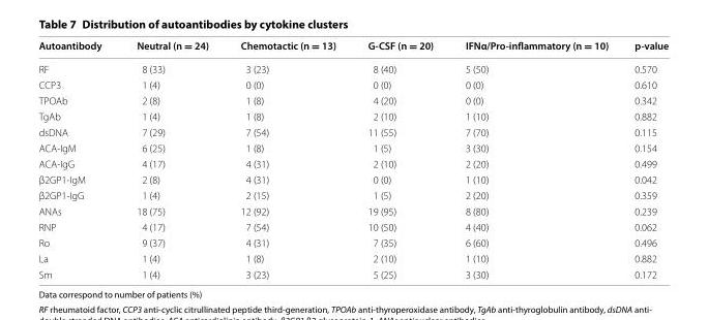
<table><thead><tr><td>Autoantibody</td><td>Neutral (n = 24)</td><td>Chemotactic (n = 13)</td><td>G-CSF (n = 20)</td><td>IFNα/Pro-inflammatory (n = 10)</td><td>p-value</td></tr></thead><tbody><tr><td>RF</td><td>8 (33)</td><td>3 (23)</td><td>8 (40)</td><td>5 (50)</td><td>0.570</td></tr><tr><td>CCP3</td><td>1 (4)</td><td>0 (0)</td><td>0 (0)</td><td>0 (0)</td><td>0.610</td></tr><tr><td>TPOAb</td><td>2 (8)</td><td>1 (8)</td><td>4 (20)</td><td>0 (0)</td><td>0.342</td></tr><tr><td>TgAb</td><td>1 (4)</td><td>1 (8)</td><td>2 (10)</td><td>1 (10)</td><td>0.882</td></tr><tr><td>dsDNA</td><td>7 (29)</td><td>7 (54)</td><td>11 (55)</td><td>7 (70)</td><td>0.115</td></tr><tr><td>ACA‑IgM</td><td>6 (25)</td><td>1 (8)</td><td>1 (5)</td><td>3 (30)</td><td>0.154</td></tr><tr><td>ACA‑IgG</td><td>4 (17)</td><td>4 (31)</td><td>2 (10)</td><td>2 (20)</td><td>0.499</td></tr><tr><td>β2GP1‑IgM</td><td>2 (8)</td><td>4 (31)</td><td>0 (0)</td><td>1 (10)</td><td>0.042</td></tr><tr><td>β2GP1‑IgG</td><td>1 (4)</td><td>2 (15)</td><td>1 (5)</td><td>2 (20)</td><td>0.359</td></tr><tr><td>ANAs</td><td>18 (75)</td><td>12 (92)</td><td>19 (95)</td><td>8 (80)</td><td>0.239</td></tr><tr><td>RNP</td><td>4 (17)</td><td>7 (54)</td><td>10 (50)</td><td>4 (40)</td><td>0.062</td></tr><tr><td>Ro</td><td>9 (37)</td><td>4 (31)</td><td>7 (35)</td><td>6 (60)</td><td>0.496</td></tr><tr><td>La</td><td>1 (4)</td><td>1 (8)</td><td>2 (10)</td><td>1 (10)</td><td>0.882</td></tr><tr><td>Sm</td><td>1 (4)</td><td>3 (23)</td><td>5 (25)</td><td>3 (30)</td><td>0.172</td></tr></tbody></table>